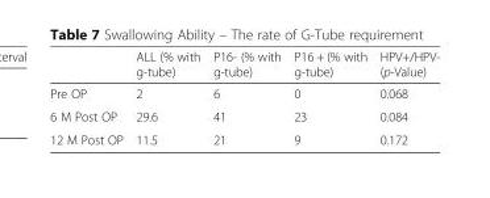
<table><thead><tr><td></td><td>ALL (% with g-tube)</td><td>P16- (% with g-tube)</td><td>P16 + (% with g-tube)</td><td>HPV+/HPV- (p-Value)</td></tr></thead><tbody><tr><td>Pre OP</td><td>2</td><td>6</td><td>0</td><td>0.068</td></tr><tr><td>6 M Post OP</td><td>29.6</td><td>41</td><td>23</td><td>0.084</td></tr><tr><td>12 M Post OP</td><td>11.5</td><td>21</td><td>9</td><td>0.172</td></tr></tbody></table>